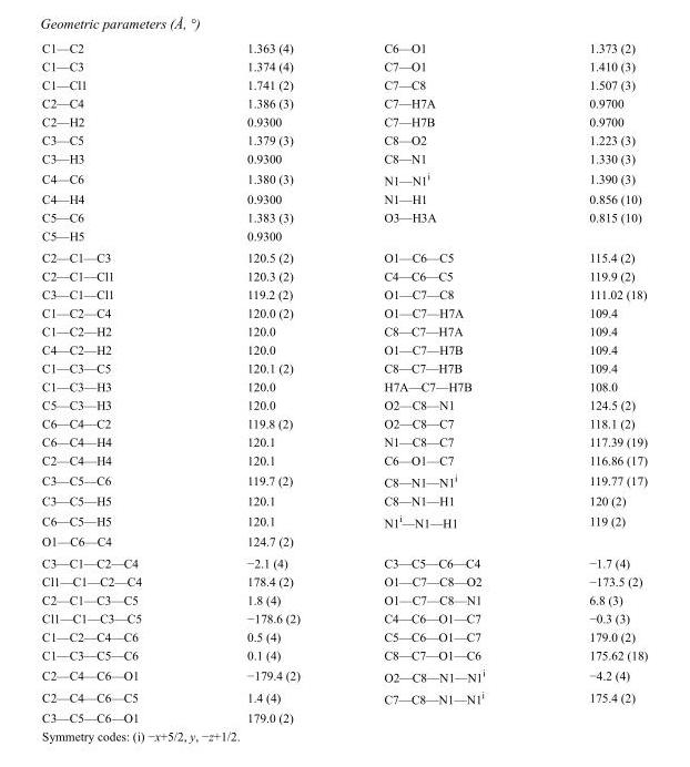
<table><tbody><tr><td>C1—C2</td><td>1.363 (4)</td><td>C6—O1</td><td>1.373 (2)</td></tr><tr><td>C1—C3</td><td>1.374 (4)</td><td>C7—O1</td><td>1.410 (3)</td></tr><tr><td>C1—Cl1</td><td>1.741 (2)</td><td>C7—C8</td><td>1.507 (3)</td></tr><tr><td>C2—C4</td><td>1.386 (3)</td><td>C7—H7A</td><td>0.9700</td></tr><tr><td>C2—H2</td><td>0.9300</td><td>C7—H7B</td><td>0.9700</td></tr><tr><td>C3—C5</td><td>1.379 (3)</td><td>C8—O2</td><td>1.223 (3)</td></tr><tr><td>C3—H3</td><td>0.9300</td><td>C8—N1</td><td>1.330 (3)</td></tr><tr><td>C4—C6</td><td>1.380 (3)</td><td>N1—N1<sup>i</sup></td><td>1.390 (3)</td></tr><tr><td>C4—H4</td><td>0.9300</td><td>N1—H1</td><td>0.856 (10)</td></tr><tr><td>C5—C6</td><td>1.383 (3)</td><td>O3—H3A</td><td>0.815 (10)</td></tr><tr><td>C5—H5</td><td>0.9300</td><td></td><td></td></tr><tr><td>C2—C1—C3</td><td>120.5 (2)</td><td>O1—C6—C5</td><td>115.4 (2)</td></tr><tr><td>C2—C1—Cl1</td><td>120.3 (2)</td><td>C4—C6—C5</td><td>119.9 (2)</td></tr><tr><td>C3—C1—Cl1</td><td>119.2 (2)</td><td>O1—C7—C8</td><td>111.02 (18)</td></tr><tr><td>C1—C2—C4</td><td>120.0 (2)</td><td>O1—C7—H7A</td><td>109.4</td></tr><tr><td>C1—C2—H2</td><td>120.0</td><td>C8—C7—H7A</td><td>109.4</td></tr><tr><td>C4—C2—H2</td><td>120.0</td><td>O1—C7—H7B</td><td>109.4</td></tr><tr><td>C1—C3—C5</td><td>120.1 (2)</td><td>C8—C7—H7B</td><td>109.4</td></tr><tr><td>C1—C3—H3</td><td>120.0</td><td>H7A—C7—H7B</td><td>108.0</td></tr><tr><td>C5—C3—H3</td><td>120.0</td><td>O2—C8—N1</td><td>124.5 (2)</td></tr><tr><td>C6—C4—C2</td><td>119.8 (2)</td><td>O2—C8—C7</td><td>118.1 (2)</td></tr><tr><td>C6—C4—H4</td><td>120.1</td><td>N1—C8—C7</td><td>117.39 (19)</td></tr><tr><td>C2—C4—H4</td><td>120.1</td><td>C6—O1—C7</td><td>116.86 (17)</td></tr><tr><td>C3—C5—C6</td><td>119.7 (2)</td><td>C8—N1—N1<sup>i</sup></td><td>119.77 (17)</td></tr><tr><td>C3—C5—H5</td><td>120.1</td><td>C8—N1—H1</td><td>120 (2)</td></tr><tr><td>C6—C5—H5</td><td>120.1</td><td>N1<sup>i</sup>—N1—H1</td><td>119 (2)</td></tr><tr><td>O1—C6—C4</td><td>124.7 (2)</td><td></td><td></td></tr><tr><td>C3—C1—C2—C4</td><td>−2.1 (4)</td><td>C3—C5—C6—C4</td><td>−1.7 (4)</td></tr><tr><td>Cl1—C1—C2—C4</td><td>178.4 (2)</td><td>O1—C7—C8—O2</td><td>−173.5 (2)</td></tr><tr><td>C2—C1—C3—C5</td><td>1.8 (4)</td><td>O1—C7—C8—N1</td><td>6.8 (3)</td></tr><tr><td>Cl1—C1—C3—C5</td><td>−178.6 (2)</td><td>C4—C6—O1—C7</td><td>−0.3 (3)</td></tr><tr><td>C1—C2—C4—C6</td><td>0.5 (4)</td><td>C5—C6—O1—C7</td><td>179.0 (2)</td></tr><tr><td>C1—C3—C5—C6</td><td>0.1 (4)</td><td>C8—C7—O1—C6</td><td>175.62 (18)</td></tr><tr><td>C2—C4—C6—O1</td><td>−179.4 (2)</td><td>O2—C8—N1—N1<sup>i</sup></td><td>−4.2 (4)</td></tr><tr><td>C2—C4—C6—C5</td><td>1.4 (4)</td><td>C7—C8—N1—N1<sup>i</sup></td><td>175.4 (2)</td></tr><tr><td>C3—C5—C6—O1</td><td>179.0 (2)</td><td></td><td></td></tr></tbody></table>